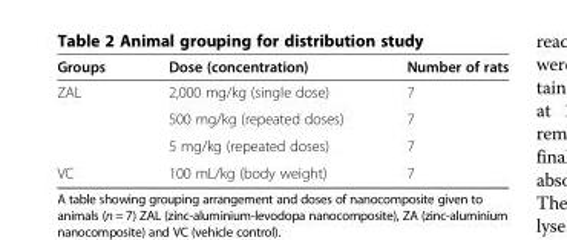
<table><thead><tr><td>Groups</td><td>Dose (concentration)</td><td>Number of rats</td></tr></thead><tbody><tr><td rowspan="3">ZAL</td><td>2,000 mg/kg (single dose)</td><td>7</td></tr><tr><td>500 mg/kg (repeated doses)</td><td>7</td></tr><tr><td>5 mg/kg (repeated doses)</td><td>7</td></tr><tr><td>VC</td><td>100 mL/kg (body weight)</td><td>7</td></tr></tbody></table>